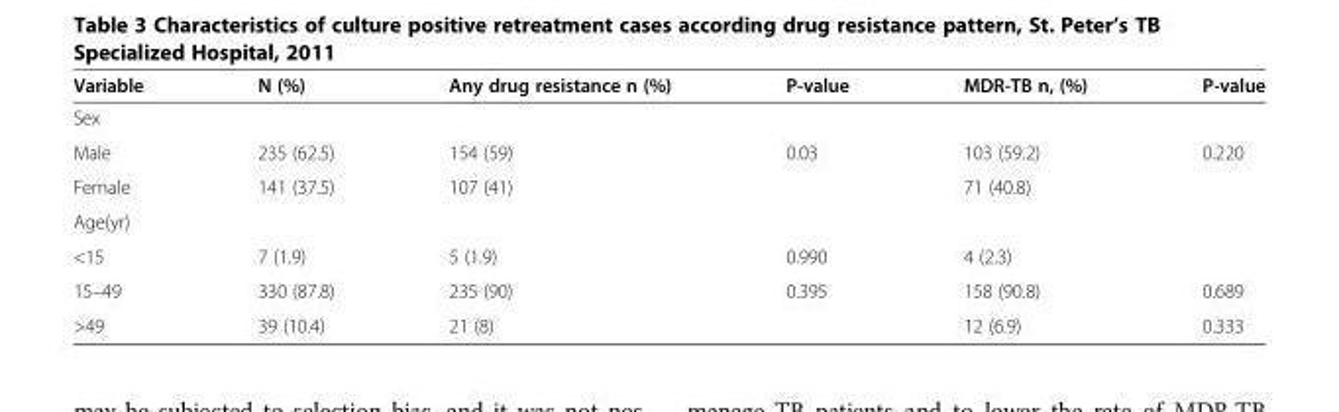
<table><thead><tr><td>Variable</td><td>N (%)</td><td>Any drug resistance n (%)</td><td>P-value</td><td>MDR-TB n, (%)</td><td>P-value</td></tr></thead><tbody><tr><td colspan="6">Sex</td></tr><tr><td>Male</td><td>235 (62.5)</td><td>154 (59)</td><td>0.03</td><td>103 (59.2)</td><td>0.220</td></tr><tr><td>Female</td><td>141 (37.5)</td><td>107 (41)</td><td></td><td>71 (40.8)</td><td></td></tr><tr><td colspan="6">Age(yr)</td></tr><tr><td>&lt;15</td><td>7 (1.9)</td><td>5 (1.9)</td><td>0.990</td><td>4 (2.3)</td><td></td></tr><tr><td>15–49</td><td>330 (87.8)</td><td>235 (90)</td><td>0.395</td><td>158 (90.8)</td><td>0.689</td></tr><tr><td>&gt;49</td><td>39 (10.4)</td><td>21 (8)</td><td></td><td>12 (6.9)</td><td>0.333</td></tr></tbody></table>